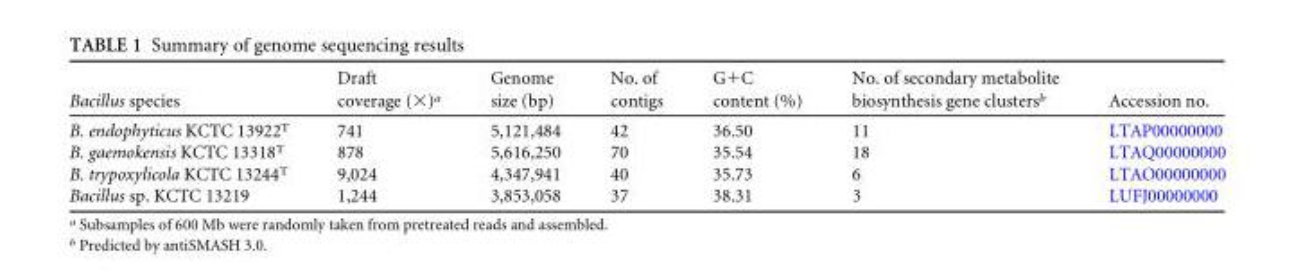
<table><thead><tr><td>Bacillus species</td><td>Draft coverage (×)<sup>a</sup></td><td>Genome size (bp)</td><td>No. of contigs</td><td>G+C content (%)</td><td>No. of secondary metabolite biosynthesis gene clusters<sup>b</sup></td><td>Accession no.</td></tr></thead><tbody><tr><td>B. endophyticus KCTC 13922<sup>T</sup></td><td>741</td><td>5,121,484</td><td>42</td><td>36.50</td><td>11</td><td>LTAP00000000</td></tr><tr><td>B. gaemokensis KCTC 13318<sup>T</sup></td><td>878</td><td>5,616,250</td><td>70</td><td>35.54</td><td>18</td><td>LTAQ00000000</td></tr><tr><td>B. trypoxylicola KCTC 13244<sup>T</sup></td><td>9,024</td><td>4,347,941</td><td>40</td><td>35.73</td><td>6</td><td>LTAO00000000</td></tr><tr><td>Bacillus sp. KCTC 13219</td><td>1,244</td><td>3,853,058</td><td>37</td><td>38.31</td><td>3</td><td>LUFJ00000000</td></tr></tbody></table>